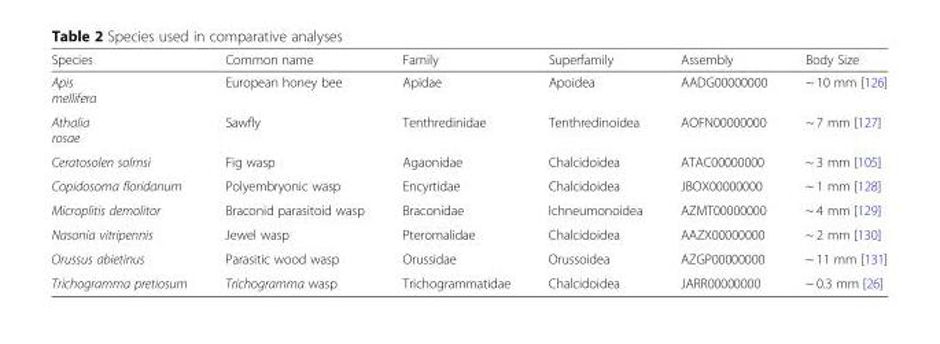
<table><thead><tr><td>Species</td><td>Common name</td><td>Family</td><td>Superfamily</td><td>Assembly</td><td>Body Size</td></tr></thead><tbody><tr><td>Apis mellifera</td><td>European honey bee</td><td>Apidae</td><td>Apoidea</td><td>AADG00000000</td><td>~ 10 mm [126]</td></tr><tr><td>Athalia rosae</td><td>Sawfly</td><td>Tenthredinidae</td><td>Tenthredinoidea</td><td>AOFN00000000</td><td>~ 7 mm [127]</td></tr><tr><td>Ceratosolen solmsi</td><td>Fig wasp</td><td>Agaonidae</td><td>Chalcidoidea</td><td>ATAC00000000</td><td>~ 3 mm [105]</td></tr><tr><td>Copidosoma floridanum</td><td>Polyembryonic wasp</td><td>Encyrtidae</td><td>Chalcidoidea</td><td>JBOX00000000</td><td>~ 1 mm [128]</td></tr><tr><td>Microplitis demolitor</td><td>Braconid parasitoid wasp</td><td>Braconidae</td><td>Ichneumonoidea</td><td>AZMT00000000</td><td>~ 4 mm [129]</td></tr><tr><td>Nasonia vitripennis</td><td>Jewel wasp</td><td>Pteromalidae</td><td>Chalcidoidea</td><td>AAZX00000000</td><td>~ 2 mm [130]</td></tr><tr><td>Orussus abietinus</td><td>Parasitic wood wasp</td><td>Orussidae</td><td>Orussoidea</td><td>AZGP00000000</td><td>~ 11 mm [131]</td></tr><tr><td>Trichogramma pretiosum</td><td>Trichogramma wasp</td><td>Trichogrammatidae</td><td>Chalcidoidea</td><td>JARR00000000</td><td>~ 0.3 mm [26]</td></tr></tbody></table>